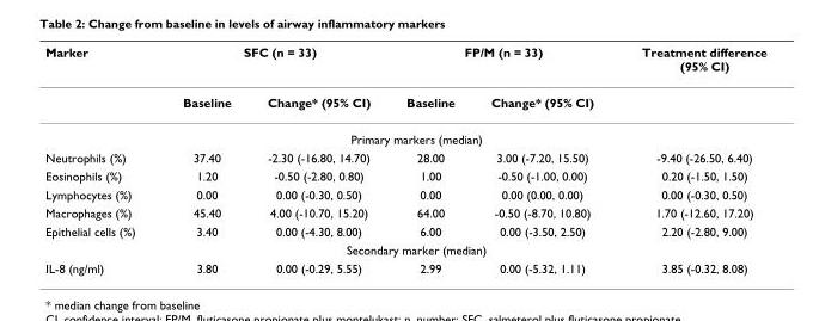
<table><thead><tr><td rowspan="2">Marker</td><td colspan="2">SFC (n = 33)</td><td colspan="2">FP/M (n = 33)</td><td rowspan="2">Treatment difference (95% CI)</td></tr><tr><td>Baseline</td><td>Change* (95% CI)</td><td>Baseline</td><td>Change* (95% CI)</td></tr></thead><tbody><tr><td colspan="6">Primary markers (median)</td></tr><tr><td>Neutrophils (%)</td><td>37.40</td><td>-2.30 (-16.80, 14.70)</td><td>28.00</td><td>3.00 (-7.20, 15.50)</td><td>-9.40 (-26.50, 6.40)</td></tr><tr><td>Eosinophils (%)</td><td>1.20</td><td>-0.50 (-2.80, 0.80)</td><td>1.00</td><td>-0.50 (-1.00, 0.00)</td><td>0.20 (-1.50, 1.50)</td></tr><tr><td>Lymphocytes (%)</td><td>0.00</td><td>0.00 (-0.30, 0.50)</td><td>0.00</td><td>0.00 (0.00, 0.00)</td><td>0.00 (-0.30, 0.50)</td></tr><tr><td>Macrophages (%)</td><td>45.40</td><td>4.00 (-10.70, 15.20)</td><td>64.00</td><td>-0.50 (-8.70, 10.80)</td><td>1.70 (-12.60, 17.20)</td></tr><tr><td>Epithelial cells (%)</td><td>3.40</td><td>0.00 (-4.30, 8.00)</td><td>6.00</td><td>0.00 (-3.50, 2.50)</td><td>2.20 (-2.80, 9.00)</td></tr><tr><td colspan="6">Secondary marker (median)</td></tr><tr><td>IL-8 (ng/ml)</td><td>3.80</td><td>0.00 (-0.29, 5.55)</td><td>2.99</td><td>0.00 (-5.32, 1.11)</td><td>3.85 (-0.32, 8.08)</td></tr></tbody></table>